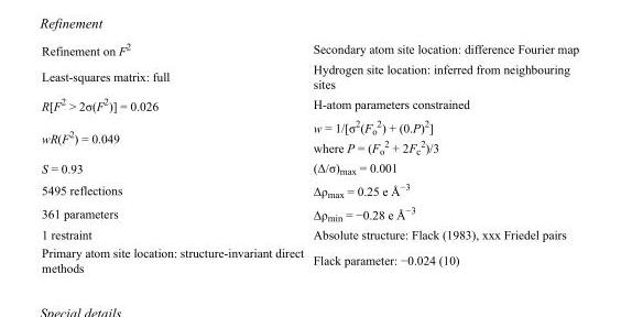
<table><tbody><tr><td>Refinement on F<sup>2</sup></td><td>Secondary atom site location: difference Fourier map</td></tr><tr><td>Least-squares matrix: full</td><td>Hydrogen site location: inferred from neighbouring sites</td></tr><tr><td>R[F<sup>2</sup> &gt; 2σ(F<sup>2</sup>)] = 0.026</td><td>H-atom parameters constrained</td></tr><tr><td>wR(F<sup>2</sup>) = 0.049</td><td>w = 1/[σ<sup>2</sup>(F<sub>o</sub> <sup>2</sup>) + (0.P)<sup>2</sup>] where P = (F<sub>o</sub> <sup>2</sup> + 2F<sub>c</sub> <sup>2</sup>)/3</td></tr><tr><td>S = 0.93</td><td>(Δ/σ)<sub>max</sub> = 0.001</td></tr><tr><td>5495 reflections</td><td>Δρ<sub>max</sub> = 0.25 e Å<sup>−3</sup></td></tr><tr><td>361 parameters</td><td>Δρ<sub>min</sub> = −0.28 e Å<sup>−3</sup></td></tr><tr><td>1 restraint</td><td>Absolute structure: Flack (1983), xxx Friedel pairs</td></tr><tr><td>Primary atom site location: structure-invariant direct methods</td><td>Flack parameter: −0.024 (10)</td></tr></tbody></table>